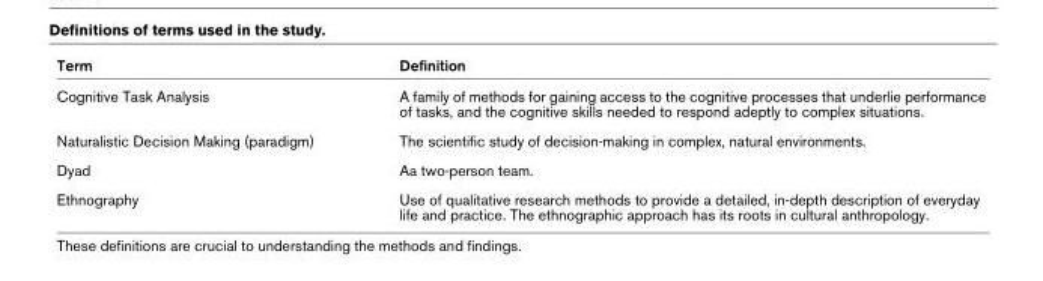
<table><thead><tr><td>Term</td><td>Definition</td></tr></thead><tbody><tr><td>Cognitive Task Analysis</td><td>A family of methods for gaining access to the cognitive processes that underlie performance of tasks, and the cognitive skills needed to respond adeptly to complex situations.</td></tr><tr><td>Naturalistic Decision Making (paradigm)</td><td>The scientific study of decision-making in complex, natural environments.</td></tr><tr><td>Dyad</td><td>Aa two-person team.</td></tr><tr><td>Ethnography</td><td>Use of qualitative research methods to provide a detailed, in-depth description of everyday life and practice. The ethnographic approach has its roots in cultural anthropology.</td></tr></tbody></table>